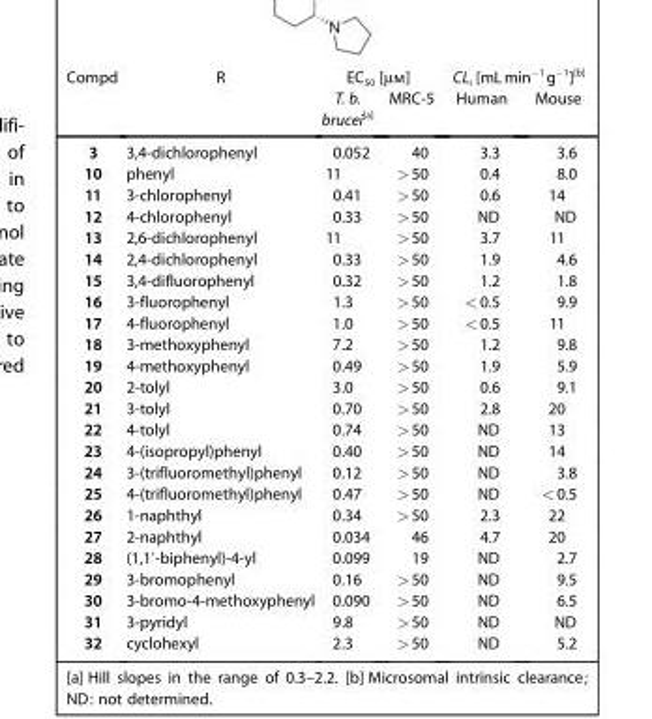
<table><thead><tr><td rowspan="2">Compd</td><td rowspan="2">R</td><td colspan="2">EC<sub>50</sub> [μm]</td><td colspan="2">CL<sub>i</sub> [mLmin<sup>−1</sup>g<sup>−1</sup>][b]</td></tr><tr><td>T. b. brucei[a]</td><td>MRC-5</td><td>Human</td><td>Mouse</td></tr></thead><tbody><tr><td>3</td><td>3,4-dichlorophenyl</td><td>0.052</td><td>40</td><td>3.3</td><td>3.6</td></tr><tr><td>10</td><td>phenyl</td><td>11</td><td>&gt;50</td><td>0.4</td><td>8.0</td></tr><tr><td>11</td><td>3-chlorophenyl</td><td>0.41</td><td>&gt;50</td><td>0.6</td><td>14</td></tr><tr><td>12</td><td>4-chlorophenyl</td><td>0.33</td><td>&gt;50</td><td>ND</td><td>ND</td></tr><tr><td>13</td><td>2,6-dichlorophenyl</td><td>11</td><td>&gt;50</td><td>3.7</td><td>11</td></tr><tr><td>14</td><td>2,4-dichlorophenyl</td><td>0.33</td><td>&gt;50</td><td>1.9</td><td>4.6</td></tr><tr><td>15</td><td>3,4-difluorophenyl</td><td>0.32</td><td>&gt;50</td><td>1.2</td><td>1.8</td></tr><tr><td>16</td><td>3-fluorophenyl</td><td>1.3</td><td>&gt;50</td><td>&lt;0.5</td><td>9.9</td></tr><tr><td>17</td><td>4-fluorophenyl</td><td>1.0</td><td>&gt;50</td><td>&lt;0.5</td><td>11</td></tr><tr><td>18</td><td>3-methoxyphenyl</td><td>7.2</td><td>&gt;50</td><td>1.2</td><td>9.8</td></tr><tr><td>19</td><td>4-methoxyphenyl</td><td>0.49</td><td>&gt;50</td><td>1.9</td><td>5.9</td></tr><tr><td>20</td><td>2-tolyl</td><td>3.0</td><td>&gt;50</td><td>0.6</td><td>9.1</td></tr><tr><td>21</td><td>3-tolyl</td><td>0.70</td><td>&gt;50</td><td>2.8</td><td>20</td></tr><tr><td>22</td><td>4-tolyl</td><td>0.74</td><td>&gt;50</td><td>ND</td><td>13</td></tr><tr><td>23</td><td>4-(isopropyl)phenyl</td><td>0.40</td><td>&gt;50</td><td>ND</td><td>14</td></tr><tr><td>24</td><td>3-(trifluoromethyl)phenyl</td><td>0.12</td><td>&gt;50</td><td>ND</td><td>3.8</td></tr><tr><td>25</td><td>4-(trifluoromethyl)phenyl</td><td>0.47</td><td>&gt;50</td><td>ND</td><td>&lt;0.5</td></tr><tr><td>26</td><td>1-naphthyl</td><td>0.34</td><td>&gt;50</td><td>2.3</td><td>22</td></tr><tr><td>27</td><td>2-naphthyl</td><td>0.034</td><td>46</td><td>4.7</td><td>20</td></tr><tr><td>28</td><td>(1,1’-biphenyl)-4-yl</td><td>0.099</td><td>19</td><td>ND</td><td>2.7</td></tr><tr><td>29</td><td>3-bromophenyl</td><td>0.16</td><td>&gt;50</td><td>ND</td><td>9.5</td></tr><tr><td>30</td><td>3-bromo-4-methoxyphenyl</td><td>0.090</td><td>&gt;50</td><td>ND</td><td>6.5</td></tr><tr><td>31</td><td>3-pyridyl</td><td>9.8</td><td>&gt;50</td><td>ND</td><td>ND</td></tr><tr><td>32</td><td>cyclohexyl</td><td>2.3</td><td>&gt;50</td><td>ND</td><td>5.2</td></tr></tbody></table>